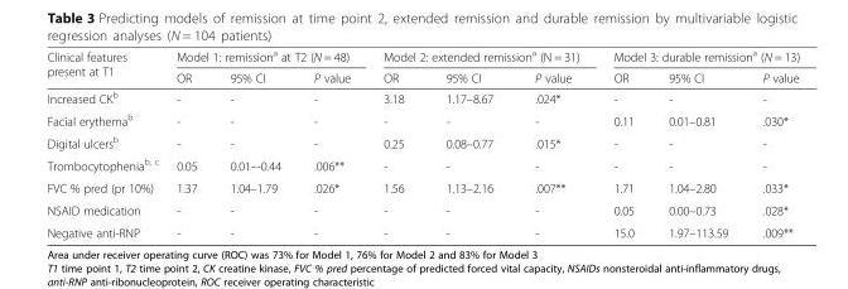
<table><thead><tr><td rowspan="2">Clinical features present at T1</td><td colspan="3">Model 1: remission<sup>a</sup> at T2 (N = 48)</td><td colspan="3">Model 2: extended remission<sup>a</sup> (N = 31)</td><td colspan="3">Model 3: durable remission<sup>a</sup> (N = 13)</td></tr><tr><td>OR</td><td>95% CI</td><td>P value</td><td>OR</td><td>95% CI</td><td>P value</td><td>OR</td><td>95% CI</td><td>P value</td></tr></thead><tbody><tr><td>Increased CK<sup>b</sup></td><td>-</td><td>-</td><td>-</td><td>3.18</td><td>1.17–8.67</td><td>.024*</td><td>-</td><td>-</td><td>-</td></tr><tr><td>Facial erythema<sup>b</sup></td><td>-</td><td>-</td><td>-</td><td>-</td><td>-</td><td>-</td><td>0.11</td><td>0.01–0.81</td><td>.030*</td></tr><tr><td>Digital ulcers<sup>b</sup></td><td>-</td><td>-</td><td>-</td><td>0.25</td><td>0.08–0.77</td><td>.015*</td><td>-</td><td>-</td><td>-</td></tr><tr><td>Trombocytophenia<sup>b, c</sup></td><td>0.05</td><td>0.01–-0.44</td><td>.006**</td><td>-</td><td>-</td><td>-</td><td>-</td><td>-</td><td>-</td></tr><tr><td>FVC % pred (pr 10%)</td><td>1.37</td><td>1.04–1.79</td><td>.026*</td><td>1.56</td><td>1.13–2.16</td><td>.007**</td><td>1.71</td><td>1.04–2.80</td><td>.033*</td></tr><tr><td>NSAID medication</td><td>-</td><td>-</td><td>-</td><td>-</td><td>-</td><td>-</td><td>0.05</td><td>0.00–0.73</td><td>.028*</td></tr><tr><td>Negative anti-RNP</td><td>-</td><td>-</td><td>-</td><td>-</td><td>-</td><td>-</td><td>15.0</td><td>1.97–113.59</td><td>.009**</td></tr></tbody></table>